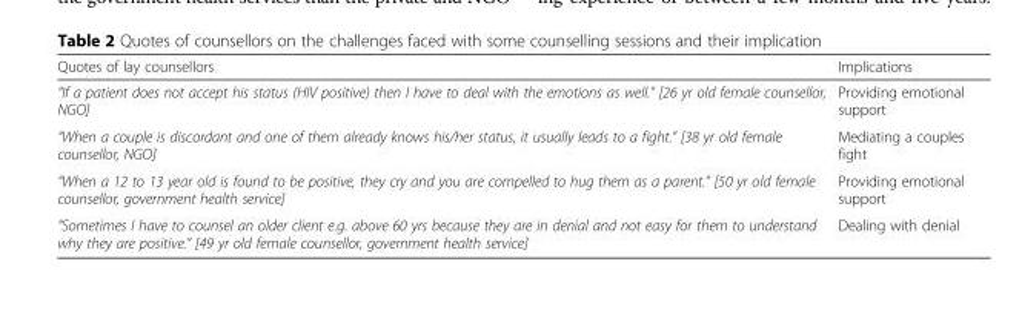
<table><thead><tr><td>Quotes of lay counsellors</td><td>Implications</td></tr></thead><tbody><tr><td>“If a patient does not accept his status (HIV positive) then I have to deal with the emotions as well.” [26 yr old female counsellor, NGO]</td><td>Providing emotional support</td></tr><tr><td>“When a couple is discordant and one of them already knows his/her status, it usually leads to a fight.” [38 yr old female counsellor, NGO]</td><td>Mediating a couples fight</td></tr><tr><td>“When a 12 to 13 year old is found to be positive, they cry and you are compelled to hug them as a parent.” [50 yr old female counsellor, government health service]</td><td>Providing emotional support</td></tr><tr><td>“Sometimes I have to counsel an older client e.g. above 60 yrs because they are in denial and not easy for them to understand why they are positive.” [49 yr old female counsellor, government health service]</td><td>Dealing with denial</td></tr></tbody></table>